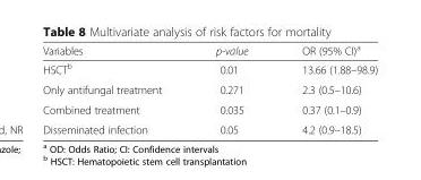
<table><thead><tr><td>Variables</td><td>p-value</td><td>OR (95% CI)<sup>a</sup></td></tr></thead><tbody><tr><td>HSCT<sup>b</sup></td><td>0.01</td><td>13.66 (1.88–98.9)</td></tr><tr><td>Only antifungal treatment</td><td>0.271</td><td>2.3 (0.5–10.6)</td></tr><tr><td>Combined treatment</td><td>0.035</td><td>0.37 (0.1–0.9)</td></tr><tr><td>Disseminated infection</td><td>0.05</td><td>4.2 (0.9–18.5)</td></tr></tbody></table>